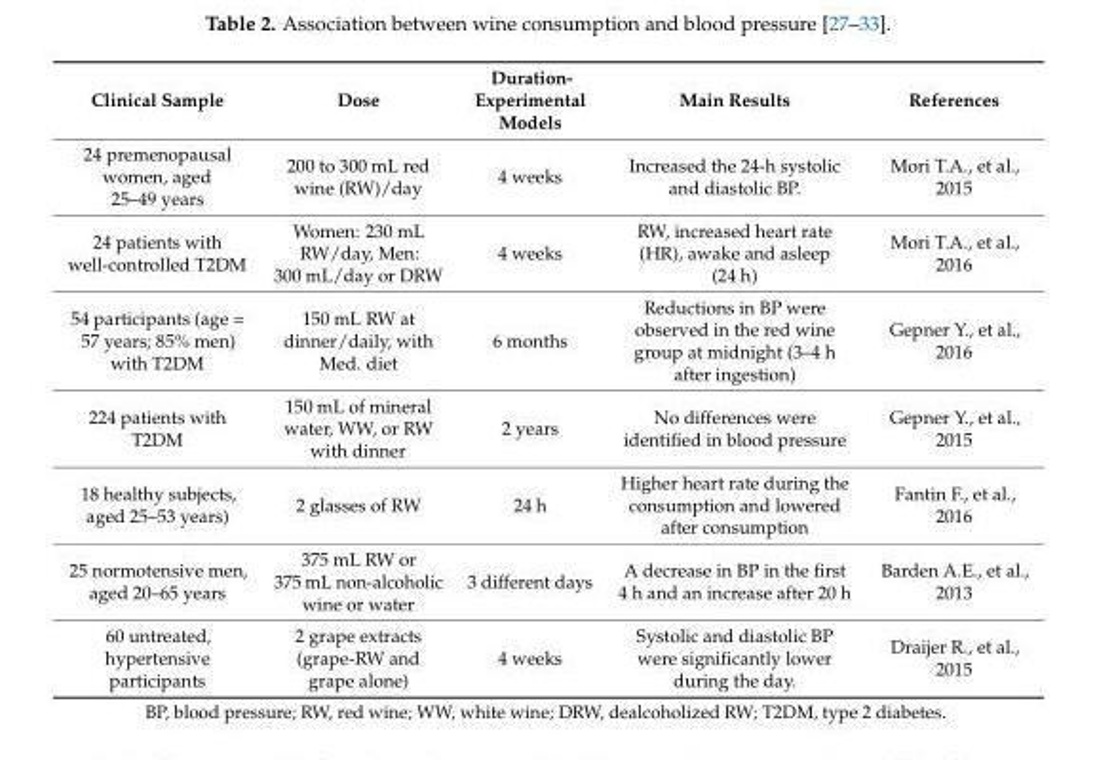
<table><thead><tr><td>Clinical Sample</td><td>Dose</td><td>Duration- Experimental Models</td><td>Main Results</td><td>References</td></tr></thead><tbody><tr><td>24 premenopausal women, aged 25–49 years</td><td>200 to 300 mL red wine (RW)/day</td><td>4 weeks</td><td>Increased the 24-h systolic and diastolic BP.</td><td>Mori T.A., et al., 2015</td></tr><tr><td>24 patients with well-controlled T2DM</td><td>Women: 230 mL RW/day, Men: 300 mL/day or DRW</td><td>4 weeks</td><td>RW, increased heart rate (HR), awake and asleep (24 h)</td><td>Mori T.A., et al., 2016</td></tr><tr><td>54 participants (age = 57 years; 85% men) with T2DM</td><td>150 mL RW at dinner/daily, with Med. diet</td><td>6 months</td><td>Reductions in BP were observed in the red wine group at midnight (3–4 h after ingestion)</td><td>Gepner Y., et al., 2016</td></tr><tr><td>224 patients with T2DM</td><td>150 mL of mineral water, WW, or RW with dinner</td><td>2 years</td><td>No differences were identified in blood pressure</td><td>Gepner Y., et al., 2015</td></tr><tr><td>18 healthy subjects, aged 25–53 years)</td><td>2 glasses of RW</td><td>24 h</td><td>Higher heart rate during the consumption and lowered after consumption</td><td>Fantin F., et al., 2016</td></tr><tr><td>25 normotensive men, aged 20–65 years</td><td>375 mL RW or 375 mL non-alcoholic wine or water</td><td>3 different days</td><td>A decrease in BP in the first 4 h and an increase after 20 h</td><td>Barden A.E., et al., 2013</td></tr><tr><td>60 untreated, hypertensive participants</td><td>2 grape extracts (grape-RW and grape alone)</td><td>4 weeks</td><td>Systolic and diastolic BP were significantly lower during the day.</td><td>Draijer R., et al., 2015</td></tr></tbody></table>